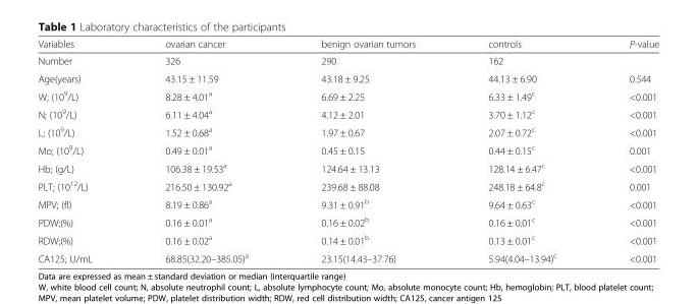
<table><thead><tr><td>Variables</td><td>ovarian cancer</td><td>benign ovarian tumors</td><td>controls</td><td>P-value</td></tr></thead><tbody><tr><td>Number</td><td>326</td><td>290</td><td>162</td><td></td></tr><tr><td>Age(years)</td><td>43.15 ± 11.59</td><td>43.18 ± 9.25</td><td>44.13 ± 6.90</td><td>0.544</td></tr><tr><td>W; (10<sup>9</sup>/L)</td><td>8.28 ± 4.01<sup>a</sup></td><td>6.69 ± 2.25</td><td>6.33 ± 1.49<sup>c</sup></td><td>&lt;0.001</td></tr><tr><td>N; (10<sup>9</sup>/L)</td><td>6.11 ± 4.04<sup>a</sup></td><td>4.12 ± 2.01</td><td>3.70 ± 1.12<sup>c</sup></td><td>&lt;0.001</td></tr><tr><td>L; (10<sup>9</sup>/L)</td><td>1.52 ± 0.68<sup>a</sup></td><td>1.97 ± 0.67</td><td>2.07 ± 0.72<sup>c</sup></td><td>&lt;0.001</td></tr><tr><td>Mo; (10<sup>9</sup>/L)</td><td>0.49 ± 0.01<sup>a</sup></td><td>0.45 ± 0.15</td><td>0.44 ± 0.15<sup>c</sup></td><td>0.001</td></tr><tr><td>Hb; (g/L)</td><td>106.38 ± 19.53<sup>a</sup></td><td>124.64 ± 13.13</td><td>128.14 ± 6.47<sup>c</sup></td><td>&lt;0.001</td></tr><tr><td>PLT; (10<sup>12</sup>/L)</td><td>216.50 ± 130.92<sup>a</sup></td><td>239.68 ± 88.08</td><td>248.18 ± 64.8<sup>c</sup></td><td>0.001</td></tr><tr><td>MPV; (fl)</td><td>8.19 ± 0.86<sup>a</sup></td><td>9.31 ± 0.91<sup>b</sup></td><td>9.64 ± 0.63<sup>c</sup></td><td>&lt;0.001</td></tr><tr><td>PDW;(%)</td><td>0.16 ± 0.01<sup>a</sup></td><td>0.16 ± 0.02<sup>b</sup></td><td>0.16 ± 0.01<sup>c</sup></td><td>&lt;0.001</td></tr><tr><td>RDW;(%)</td><td>0.16 ± 0.02<sup>a</sup></td><td>0.14 ± 0.01<sup>b</sup></td><td>0.13 ± 0.01<sup>c</sup></td><td>&lt;0.001</td></tr><tr><td>CA125; U/mL</td><td>68.85(32.20–385.05)<sup>a</sup></td><td>23.15(14.43–37.76)</td><td>5.94(4.04–13.94)<sup>c</sup></td><td>&lt;0.001</td></tr></tbody></table>